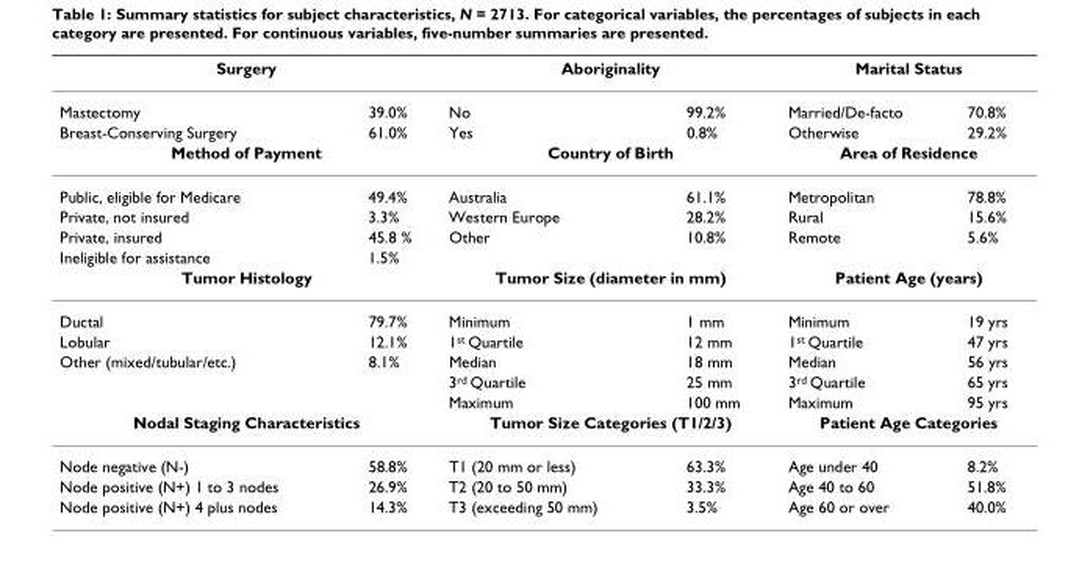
<table><thead><tr><td colspan="2">Surgery</td><td colspan="2">Aboriginality</td><td colspan="2">Marital Status</td></tr><tr><td>Mastectomy</td><td>39.0%</td><td>No</td><td>99.2%</td><td>Married/De-facto</td><td>70.8%</td></tr></thead><tbody><tr><td>Breast-Conserving Surgery</td><td>61.0%</td><td>Yes</td><td>0.8%</td><td>Otherwise</td><td>29.2%</td></tr><tr><td colspan="2">Method of Payment</td><td colspan="2">Country of Birth</td><td colspan="2">Area of Residence</td></tr><tr><td>Public, eligible for Medicare</td><td>49.4%</td><td>Australia</td><td>61.1%</td><td>Metropolitan</td><td>78.8%</td></tr><tr><td>Private, not insured</td><td>3.3%</td><td>Western Europe</td><td>28.2%</td><td>Rural</td><td>15.6%</td></tr><tr><td>Private, insured</td><td>45.8 %</td><td>Other</td><td>10.8%</td><td>Remote</td><td>5.6%</td></tr><tr><td>Ineligible for assistance</td><td>1.5%</td><td></td><td></td><td></td><td></td></tr><tr><td colspan="2">Tumor Histology</td><td colspan="2">Tumor Size (diameter in mm)</td><td colspan="2">Patient Age (years)</td></tr><tr><td>Ductal</td><td>79.7%</td><td>Minimum</td><td>1 mm</td><td>Minimum</td><td>19 yrs</td></tr><tr><td>Lobular</td><td>12.1%</td><td>1st Quartile</td><td>12 mm</td><td>1st Quartile</td><td>47 yrs</td></tr><tr><td rowspan="3">Other (mixed/tubular/etc.)</td><td>8.1%</td><td>Median</td><td>18 mm</td><td>Median</td><td>56 yrs</td></tr><tr><td></td><td>3rd Quartile</td><td>25 mm</td><td>3rd Quartile</td><td>65 yrs</td></tr><tr><td></td><td>Maximum</td><td>100 mm</td><td>Maximum</td><td>95 yrs</td></tr><tr><td colspan="2">Nodal Staging Characteristics</td><td colspan="2">Tumor Size Categories (T1/2/3)</td><td colspan="2">Patient Age Categories</td></tr><tr><td>Node negative (N-)</td><td>58.8%</td><td>T1 (20 mm or less)</td><td>63.3%</td><td>Age under 40</td><td>8.2%</td></tr><tr><td>Node positive (N+) 1 to 3 nodes</td><td>26.9%</td><td>T2 (20 to 50 mm)</td><td>33.3%</td><td>Age 40 to 60</td><td>51.8%</td></tr><tr><td>Node positive (N+) 4 plus nodes</td><td>14.3%</td><td>T3 (exceeding 50 mm)</td><td>3.5%</td><td>Age 60 or over</td><td>40.0%</td></tr></tbody></table>